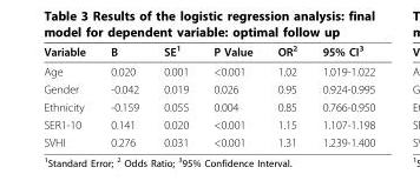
<table><thead><tr><td>Variable</td><td>B</td><td>SE<sup>1</sup></td><td>P Value</td><td>OR<sup>2</sup></td><td>95% CI<sup>3</sup></td></tr></thead><tbody><tr><td>Age</td><td>0.020</td><td>0.001</td><td>&lt;0.001</td><td>1.02</td><td>1.019-1.022</td></tr><tr><td>Gender</td><td>-0.042</td><td>0.019</td><td>0.026</td><td>0.95</td><td>0.924-0.995</td></tr><tr><td>Ethnicity</td><td>-0.159</td><td>0.055</td><td>0.004</td><td>0.85</td><td>0.766-0.950</td></tr><tr><td>SER1-10</td><td>0.141</td><td>0.020</td><td>&lt;0.001</td><td>1.15</td><td>1.107-1.198</td></tr><tr><td>SVHI</td><td>0.276</td><td>0.031</td><td>&lt;0.001</td><td>1.31</td><td>1.239-1.400</td></tr></tbody></table>